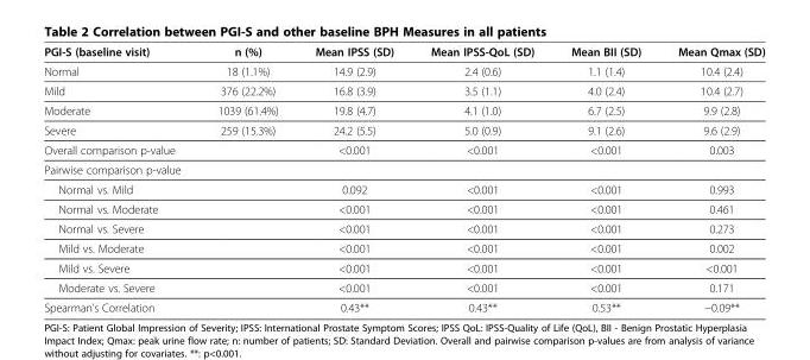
<table><thead><tr><td>PGI-S (baseline visit)</td><td>n (%)</td><td>Mean IPSS (SD)</td><td>Mean IPSS-QoL (SD)</td><td>Mean BII (SD)</td><td>Mean Qmax (SD)</td></tr></thead><tbody><tr><td>Normal</td><td>18 (1.1%)</td><td>14.9 (2.9)</td><td>2.4 (0.6)</td><td>1.1 (1.4)</td><td>10.4 (2.4)</td></tr><tr><td>Mild</td><td>376 (22.2%)</td><td>16.8 (3.9)</td><td>3.5 (1.1)</td><td>4.0 (2.4)</td><td>10.4 (2.7)</td></tr><tr><td>Moderate</td><td>1039 (61.4%)</td><td>19.8 (4.7)</td><td>4.1 (1.0)</td><td>6.7 (2.5)</td><td>9.9 (2.8)</td></tr><tr><td>Severe</td><td>259 (15.3%)</td><td>24.2 (5.5)</td><td>5.0 (0.9)</td><td>9.1 (2.6)</td><td>9.6 (2.9)</td></tr><tr><td>Overall comparison p-value</td><td></td><td>&lt;0.001</td><td>&lt;0.001</td><td>&lt;0.001</td><td>0.003</td></tr><tr><td colspan="6">Pairwise comparison p-value</td></tr><tr><td>Normal vs. Mild</td><td></td><td>0.092</td><td>&lt;0.001</td><td>&lt;0.001</td><td>0.993</td></tr><tr><td>Normal vs. Moderate</td><td></td><td>&lt;0.001</td><td>&lt;0.001</td><td>&lt;0.001</td><td>0.461</td></tr><tr><td>Normal vs. Severe</td><td></td><td>&lt;0.001</td><td>&lt;0.001</td><td>&lt;0.001</td><td>0.273</td></tr><tr><td>Mild vs. Moderate</td><td></td><td>&lt;0.001</td><td>&lt;0.001</td><td>&lt;0.001</td><td>0.002</td></tr><tr><td>Mild vs. Severe</td><td></td><td>&lt;0.001</td><td>&lt;0.001</td><td>&lt;0.001</td><td>&lt;0.001</td></tr><tr><td>Moderate vs. Severe</td><td></td><td>&lt;0.001</td><td>&lt;0.001</td><td>&lt;0.001</td><td>0.171</td></tr><tr><td>Spearman’s Correlation</td><td></td><td>0.43**</td><td>0.43**</td><td>0.53**</td><td>−0.09**</td></tr></tbody></table>